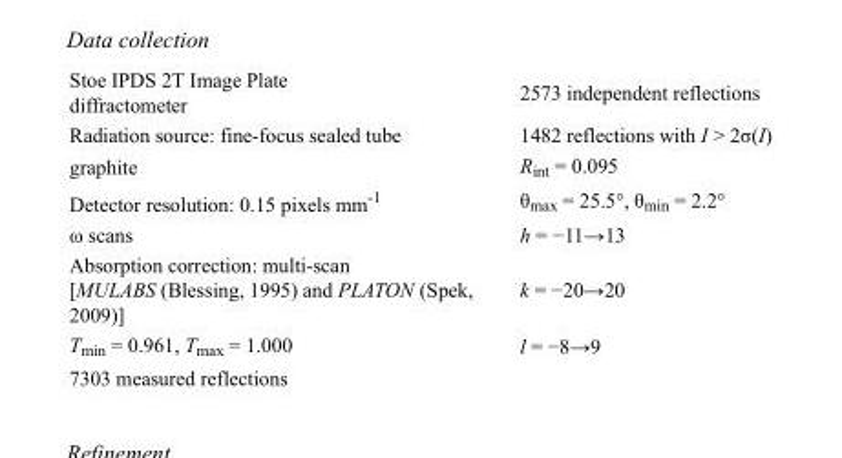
<table><tbody><tr><td>Stoe IPDS 2T Image Plate diffractometer</td><td>2573 independent reflections</td></tr><tr><td>Radiation source: fine-focus sealed tube</td><td>1482 reflections with I &gt; 2σ(I)</td></tr><tr><td>graphite</td><td>R<sub>int</sub> = 0.095</td></tr><tr><td>Detector resolution: 0.15 pixels mm<sup>-1</sup></td><td>θ<sub>max</sub> = 25.5°, θ<sub>min</sub> = 2.2°</td></tr><tr><td>ω scans</td><td>h = −11→13</td></tr><tr><td>Absorption correction: multi-scan [MULABS (Blessing, 1995) and PLATON (Spek, 2009)]</td><td>k = −20→20</td></tr><tr><td>T<sub>min</sub> = 0.961, T<sub>max</sub> = 1.000</td><td>l = −8→9</td></tr><tr><td>7303 measured reflections</td><td></td></tr></tbody></table>